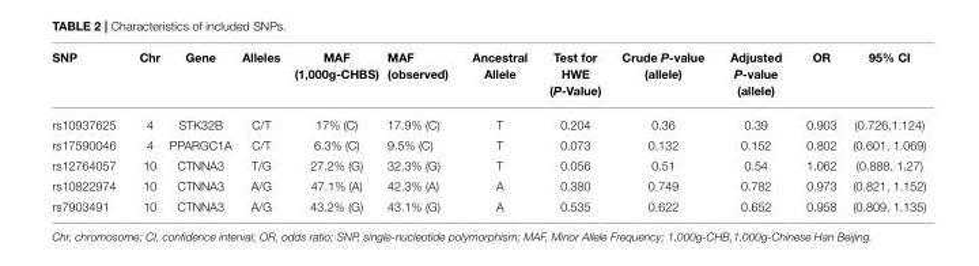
<table><thead><tr><td>SNP</td><td>Chr</td><td>Gene</td><td>Alleles</td><td>MAF (1,000g-CHBS)</td><td>MAF (observed)</td><td>Ancestral Allele</td><td>Test for HWE (P-Value)</td><td>Crude P-value (allele)</td><td>Adjusted P-value (allele)</td><td>OR</td><td>95% CI</td></tr></thead><tbody><tr><td>rs10937625</td><td>4</td><td>STK32B</td><td>C/T</td><td>17% (C)</td><td>17.9% (C)</td><td>T</td><td>0.204</td><td>0.36</td><td>0.39</td><td>0.903</td><td>(0.726,1.124)</td></tr><tr><td>rs17590046</td><td>4</td><td>PPARGC1A</td><td>C/T</td><td>6.3% (C)</td><td>9.5% (C)</td><td>T</td><td>0.073</td><td>0.132</td><td>0.152</td><td>0.802</td><td>(0.601, 1.069)</td></tr><tr><td>rs12764057</td><td>10</td><td>CTNNA3</td><td>T/G</td><td>27.2% (G)</td><td>32.3% (G)</td><td>T</td><td>0.056</td><td>0.51</td><td>0.54</td><td>1.062</td><td>(0.888, 1.27)</td></tr><tr><td>rs10822974</td><td>10</td><td>CTNNA3</td><td>A/G</td><td>47.1% (A)</td><td>42.3% (A)</td><td>A</td><td>0.380</td><td>0.749</td><td>0.782</td><td>0.973</td><td>(0.821, 1.152)</td></tr><tr><td>rs7903491</td><td>10</td><td>CTNNA3</td><td>A/G</td><td>43.2% (G)</td><td>43.1% (G)</td><td>A</td><td>0.535</td><td>0.622</td><td>0.652</td><td>0.958</td><td>(0.809, 1.135)</td></tr></tbody></table>